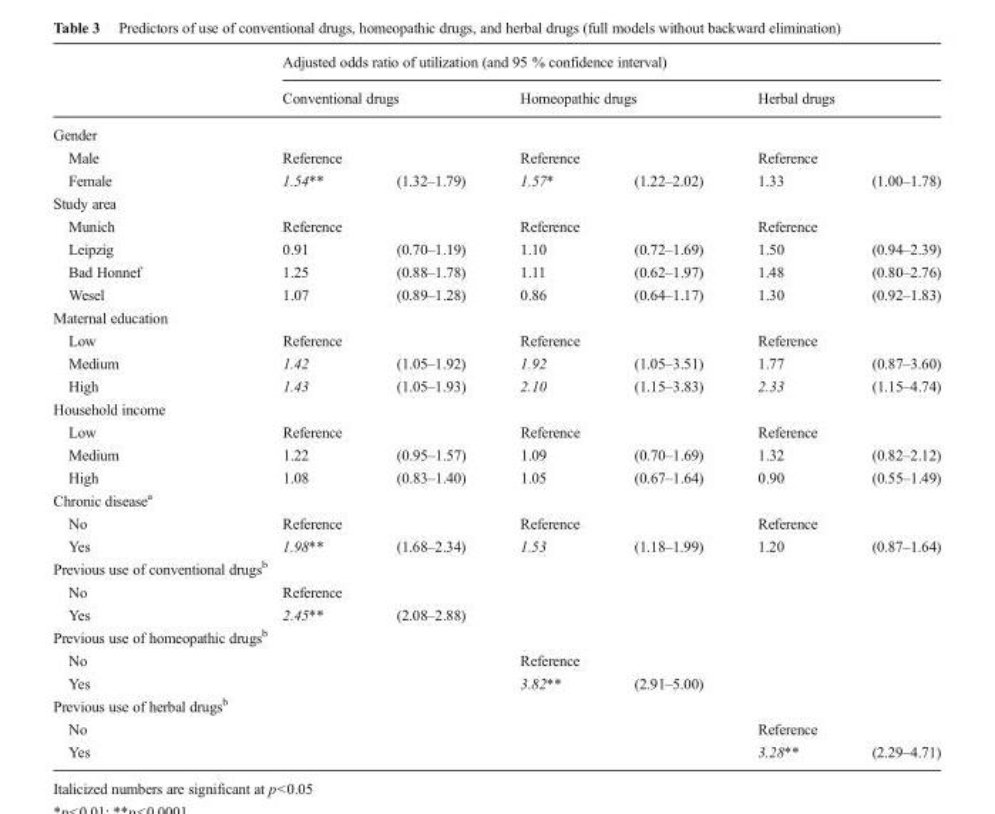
<table><thead><tr><td rowspan="2"></td><td colspan="6">Adjusted odds ratio of utilization (and 95 % confidence interval)</td></tr><tr><td colspan="2">Conventional drugs</td><td colspan="2">Homeopathic drugs</td><td colspan="2">Herbal drugs</td></tr><tr><td colspan="7">Gender</td></tr><tr><td rowspan="2">Male Female</td><td colspan="2">Reference</td><td colspan="2">Reference</td><td colspan="2">Reference</td></tr><tr><td>1.54**</td><td>(1.32–1.79)</td><td>1.57*</td><td>(1.22–2.02)</td><td>1.33</td><td>(1.00–1.78)</td></tr></thead><tbody><tr><td colspan="7">Study area</td></tr><tr><td>Munich</td><td colspan="2">Reference</td><td colspan="2">Reference</td><td colspan="2">Reference</td></tr><tr><td>Leipzig</td><td>0.91</td><td>(0.70–1.19)</td><td>1.10</td><td>(0.72–1.69)</td><td>1.50</td><td>(0.94–2.39)</td></tr><tr><td>Bad Honnef</td><td>1.25</td><td>(0.88–1.78)</td><td>1.11</td><td>(0.62–1.97)</td><td>1.48</td><td>(0.80–2.76)</td></tr><tr><td>Wesel</td><td>1.07</td><td>(0.89–1.28)</td><td>0.86</td><td>(0.64–1.17)</td><td>1.30</td><td>(0.92–1.83)</td></tr><tr><td colspan="7">Maternal education</td></tr><tr><td>Low</td><td colspan="2">Reference</td><td colspan="2">Reference</td><td colspan="2">Reference</td></tr><tr><td>Medium</td><td>1.42</td><td>(1.05–1.92)</td><td>1.92</td><td>(1.05–3.51)</td><td>1.77</td><td>(0.87–3.60)</td></tr><tr><td>High</td><td>1.43</td><td>(1.05–1.93)</td><td>2.10</td><td>(1.15–3.83)</td><td>2.33</td><td>(1.15–4.74)</td></tr><tr><td colspan="7">Household income</td></tr><tr><td>Low</td><td colspan="2">Reference</td><td colspan="2">Reference</td><td colspan="2">Reference</td></tr><tr><td>Medium</td><td>1.22</td><td>(0.95–1.57)</td><td>1.09</td><td>(0.70–1.69)</td><td>1.32</td><td>(0.82–2.12)</td></tr><tr><td>High</td><td>1.08</td><td>(0.83–1.40)</td><td>1.05</td><td>(0.67–1.64)</td><td>0.90</td><td>(0.55–1.49)</td></tr><tr><td colspan="7">Chronic disease<sup>a</sup></td></tr><tr><td>No</td><td>Reference</td><td></td><td>Reference</td><td></td><td>Reference</td><td></td></tr><tr><td>Yes</td><td>1.98**</td><td>(1.68–2.34)</td><td>1.53</td><td>(1.18–1.99)</td><td>1.20</td><td>(0.87–1.64)</td></tr><tr><td colspan="7">Previous use of conventional drugs<sup>b</sup></td></tr><tr><td>No</td><td colspan="2">Reference</td><td colspan="2"></td><td colspan="2"></td></tr><tr><td>Yes</td><td>2.45**</td><td>(2.08–2.88)</td><td></td><td></td><td></td><td></td></tr><tr><td colspan="7">Previous use of homeopathic drugs<sup>b</sup></td></tr><tr><td>No</td><td colspan="2"></td><td colspan="2">Reference</td><td colspan="2"></td></tr><tr><td>Yes</td><td></td><td></td><td>3.82**</td><td>(2.91–5.00)</td><td></td><td></td></tr><tr><td colspan="7">Previous use of herbal drugs<sup>b</sup></td></tr><tr><td>No</td><td colspan="2"></td><td colspan="2"></td><td colspan="2">Reference</td></tr><tr><td>Yes</td><td></td><td></td><td></td><td></td><td>3.28**</td><td>(2.29–4.71)</td></tr></tbody></table>